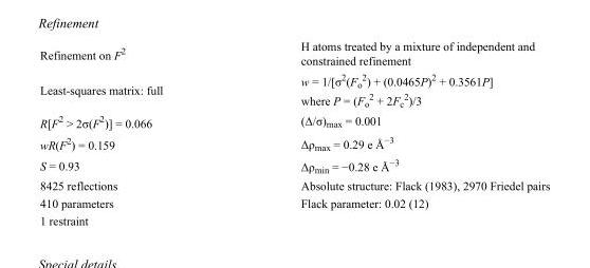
<table><tbody><tr><td>Refinement on F<sup>2</sup></td><td>H atoms treated by a mixture of independent and constrained refinement</td></tr><tr><td>Least-squares matrix: full</td><td>w = 1/[σ<sup>2</sup>(F<sub>o</sub> <sup>2</sup>) + (0.0465P)<sup>2</sup> + 0.3561P] where P = (F<sub>o</sub> <sup>2</sup> + 2F<sub>c</sub> <sup>2</sup>)/3</td></tr><tr><td>R[F<sup>2</sup> &gt; 2σ(F<sup>2</sup>)] = 0.066</td><td>(Δ/σ)<sub>max</sub> = 0.001</td></tr><tr><td>wR(F<sup>2</sup>) = 0.159</td><td>Δρ<sub>max</sub> = 0.29 e Å<sup>−3</sup></td></tr><tr><td>S = 0.93</td><td>Δρ<sub>min</sub> = −0.28 e Å<sup>−3</sup></td></tr><tr><td>8425 reflections</td><td>Absolute structure: Flack (1983), 2970 Friedel pairs</td></tr><tr><td>410 parameters</td><td>Flack parameter: 0.02 (12)</td></tr><tr><td>1 restraint</td><td></td></tr></tbody></table>